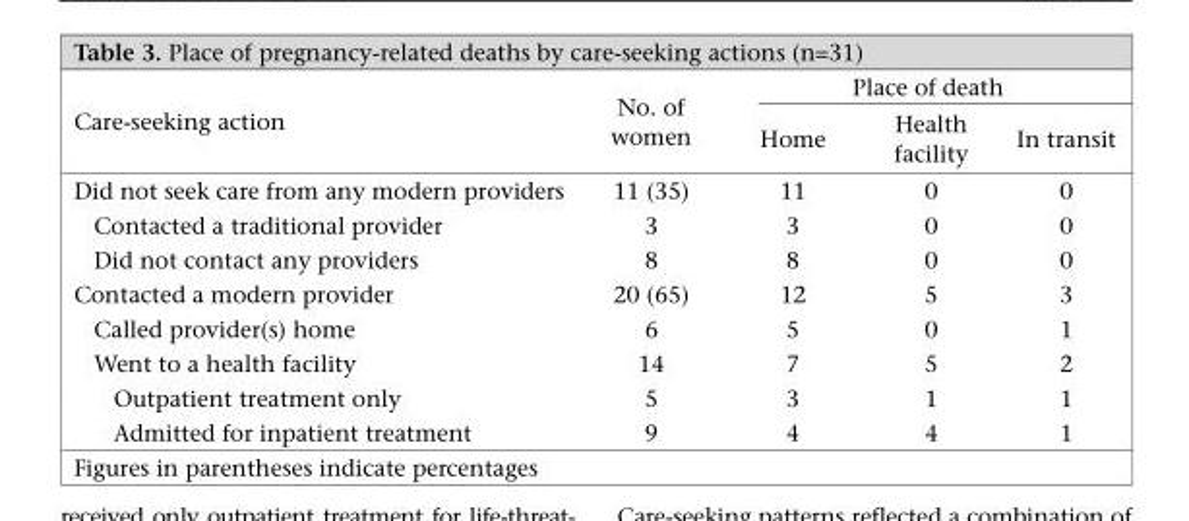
<table><thead><tr><td rowspan="2">Care-seeking action</td><td rowspan="2">No. of women</td><td colspan="3">Place of death</td></tr><tr><td>Home</td><td>Health facility</td><td>In transit</td></tr></thead><tbody><tr><td>Did not seek care from any modern providers</td><td>11 (35)</td><td>11</td><td>0</td><td>0</td></tr><tr><td>Contacted a traditional provider</td><td>3</td><td>3</td><td>0</td><td>0</td></tr><tr><td>Did not contact any providers</td><td>8</td><td>8</td><td>0</td><td>0</td></tr><tr><td>Contacted a modern provider</td><td>20 (65)</td><td>12</td><td>5</td><td>3</td></tr><tr><td>Called provider(s) home</td><td>6</td><td>5</td><td>0</td><td>1</td></tr><tr><td>Went to a health facility</td><td>14</td><td>7</td><td>5</td><td>2</td></tr><tr><td>Outpatient treatment only</td><td>5</td><td>3</td><td>1</td><td>1</td></tr><tr><td>Admitted for inpatient treatment</td><td>9</td><td>4</td><td>4</td><td>1</td></tr></tbody></table>